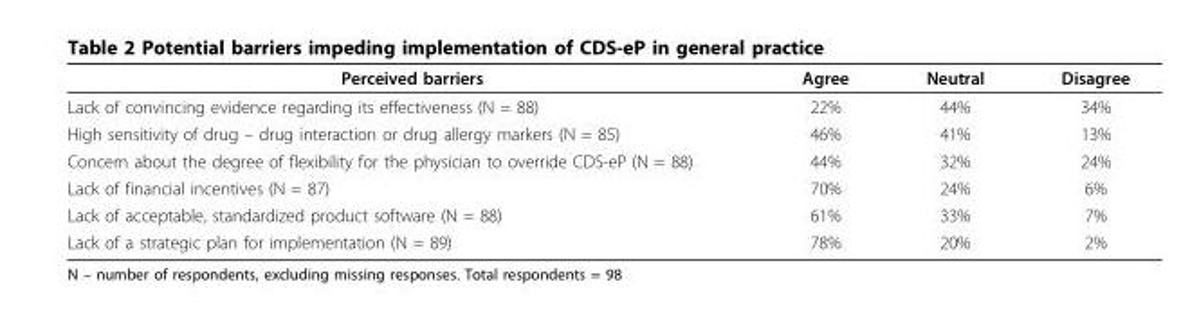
<table><thead><tr><td>Perceived barriers</td><td>Agree</td><td>Neutral</td><td>Disagree</td></tr></thead><tbody><tr><td>Lack of convincing evidence regarding its effectiveness (N = 88)</td><td>22%</td><td>44%</td><td>34%</td></tr><tr><td>High sensitivity of drug – drug interaction or drug allergy markers (N = 85)</td><td>46%</td><td>41%</td><td>13%</td></tr><tr><td>Concern about the degree of flexibility for the physician to override CDS-eP (N = 88)</td><td>44%</td><td>32%</td><td>24%</td></tr><tr><td>Lack of financial incentives (N = 87)</td><td>70%</td><td>24%</td><td>6%</td></tr><tr><td>Lack of acceptable, standardized product software (N = 88)</td><td>61%</td><td>33%</td><td>7%</td></tr><tr><td>Lack of a strategic plan for implementation (N = 89)</td><td>78%</td><td>20%</td><td>2%</td></tr></tbody></table>